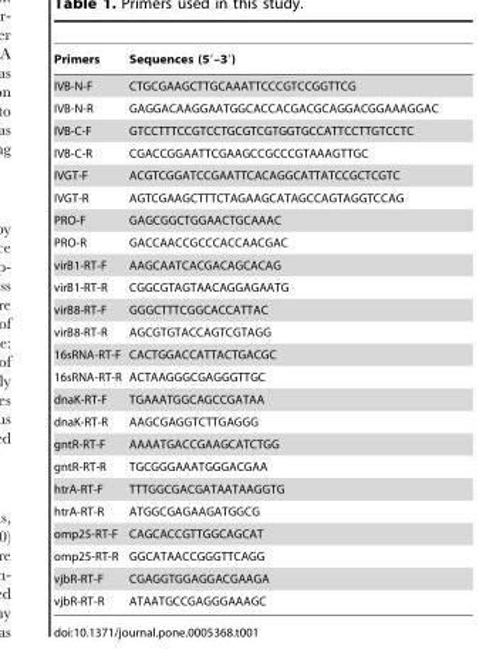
<table><thead><tr><td>Primers</td><td>Sequences (5′–3′)</td></tr></thead><tbody><tr><td>IVB-N-F</td><td>CTGCGAAGCTTGCAAATTCCCGTCCGGTTCG</td></tr><tr><td>IVB-N-R</td><td>GAGGACAAGGAATGGCACCACGACGCAGGACGGAAAGGAC</td></tr><tr><td>IVB-C-F</td><td>GTCCTTTCCGTCCTGCGTCGTGGTGCCATTCCTTGTCCTC</td></tr><tr><td>IVB-C-R</td><td>CGACCGGAATTCGAAGCCGCCCGTAAAGTTGC</td></tr><tr><td>IVGT-F</td><td>ACGTCGGATCCGAATTCACAGGCATTATCCGCTCGTC</td></tr><tr><td>IVGT-R</td><td>AGTCGAAGCTTTCTAGAAGCATAGCCAGTAGGTCCAG</td></tr><tr><td>PRO-F</td><td>GAGCGGCTGGAACTGCAAAC</td></tr><tr><td>PRO-R</td><td>GACCAACCGCCCACCAACGAC</td></tr><tr><td>virB1-RT-F</td><td>AAGCAATCACGACAGCACAG</td></tr><tr><td>virB1-RT-R</td><td>CGGCGTAGTAACAGGAGAATG</td></tr><tr><td>virB8-RT-F</td><td>GGGCTTTCGGCACCATTAC</td></tr><tr><td>virB8-RT-R</td><td>AGCGTGTACCAGTCGTAGG</td></tr><tr><td>16sRNA-RT-F</td><td>CACTGGACCATTACTGACGC</td></tr><tr><td>16sRNA-RT-R</td><td>ACTAAGGGCGAGGGTTGC</td></tr><tr><td>dnaK-RT-F</td><td>TGAAATGGCAGCCGATAA</td></tr><tr><td>dnaK-RT-R</td><td>AAGCGAGGTCTTGAGGG</td></tr><tr><td>gntR-RT-F</td><td>AAAATGACCGAAGCATCTGG</td></tr><tr><td>gntR-RT-R</td><td>TGCGGGAAATGGGACGAA</td></tr><tr><td>htrA-RT-F</td><td>TTTGGCGACGATAATAAGGTG</td></tr><tr><td>htrA-RT-R</td><td>ATGGCGAGAAGATGGCG</td></tr><tr><td>omp25-RT-F</td><td>CAGCACCGTTGGCAGCAT</td></tr><tr><td>omp25-RT-R</td><td>GGCATAACCGGGTTCAGG</td></tr><tr><td>vjbR-RT-F</td><td>CGAGGTGGAGGACGAAGA</td></tr><tr><td>vjbR-RT-R</td><td>ATAATGCCGAGGGAAAGC</td></tr></tbody></table>